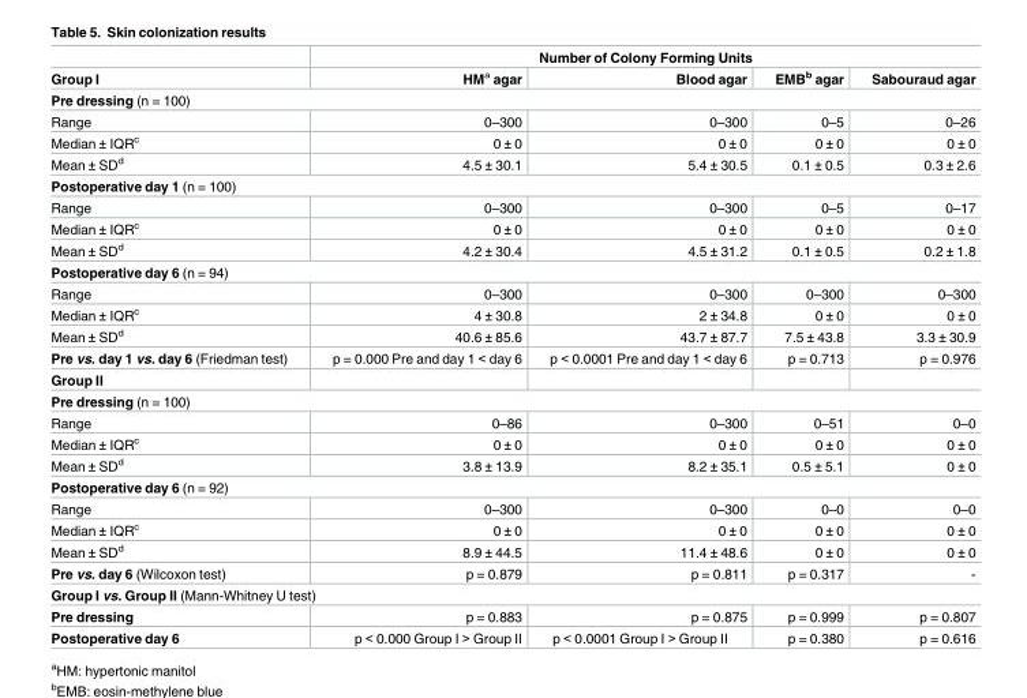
<table><thead><tr><td rowspan="2">Group I</td><td colspan="4">Number of Colony Forming Units</td></tr><tr><td>HM<sup>a</sup> agar</td><td>Blood agar</td><td>EMB<sup>b</sup> agar</td><td>Sabouraud agar</td></tr></thead><tbody><tr><td colspan="5">Pre dressing (n = 100)</td></tr><tr><td>Range</td><td>0–300</td><td>0–300</td><td>0–5</td><td>0–26</td></tr><tr><td>Median ± IQR<sup>c</sup></td><td>0 ± 0</td><td>0 ± 0</td><td>0 ± 0</td><td>0 ± 0</td></tr><tr><td>Mean ± SD<sup>d</sup></td><td>4.5 ± 30.1</td><td>5.4 ± 30.5</td><td>0.1 ± 0.5</td><td>0.3 ± 2.6</td></tr><tr><td colspan="5">Postoperative day 1 (n = 100)</td></tr><tr><td>Range</td><td>0–300</td><td>0–300</td><td>0–5</td><td>0–17</td></tr><tr><td>Median ± IQR<sup>c</sup></td><td>0 ± 0</td><td>0 ± 0</td><td>0 ± 0</td><td>0 ± 0</td></tr><tr><td>Mean ± SD<sup>d</sup></td><td>4.2 ± 30.4</td><td>4.5 ± 31.2</td><td>0.1 ± 0.5</td><td>0.2 ± 1.8</td></tr><tr><td colspan="5">Postoperative day 6 (n = 94)</td></tr><tr><td>Range</td><td>0–300</td><td>0–300</td><td>0–300</td><td>0–300</td></tr><tr><td>Median ± IQR<sup>c</sup></td><td>4 ± 30.8</td><td>2 ± 34.8</td><td>0 ± 0</td><td>0 ± 0</td></tr><tr><td>Mean ± SD<sup>d</sup></td><td>40.6 ± 85.6</td><td>43.7 ± 87.7</td><td>7.5 ± 43.8</td><td>3.3 ± 30.9</td></tr><tr><td>Pre vs. day 1 vs. day 6 (Friedman test)</td><td>p = 0.000 Pre and day 1 &lt; day 6</td><td>p &lt; 0.0001 Pre and day 1 &lt; day 6</td><td>p = 0.713</td><td>p = 0.976</td></tr><tr><td colspan="5">Group II</td></tr><tr><td colspan="5">Pre dressing (n = 100)</td></tr><tr><td>Range</td><td>0–86</td><td>0–300</td><td>0–51</td><td>0–0</td></tr><tr><td>Median ± IQR<sup>c</sup></td><td>0 ± 0</td><td>0 ± 0</td><td>0 ± 0</td><td>0 ± 0</td></tr><tr><td>Mean ± SD<sup>d</sup></td><td>3.8 ± 13.9</td><td>8.2 ± 35.1</td><td>0.5 ± 5.1</td><td>0 ± 0</td></tr><tr><td colspan="5">Postoperative day 6 (n = 92)</td></tr><tr><td>Range</td><td>0–300</td><td>0–300</td><td>0–0</td><td>0–0</td></tr><tr><td>Median ± IQR<sup>c</sup></td><td>0 ± 0</td><td>0 ± 0</td><td>0 ± 0</td><td>0 ± 0</td></tr><tr><td>Mean ± SD<sup>d</sup></td><td>8.9 ± 44.5</td><td>11.4 ± 48.6</td><td>0 ± 0</td><td>0 ± 0</td></tr><tr><td>Pre vs. day 6 (Wilcoxon test)</td><td>p = 0.879</td><td>p = 0.811</td><td>p = 0.317</td><td>-</td></tr><tr><td colspan="5">Group I vs. Group II (Mann-Whitney U test)</td></tr><tr><td>Pre dressing</td><td>p = 0.883</td><td>p = 0.875</td><td>p = 0.999</td><td>p = 0.807</td></tr><tr><td>Postoperative day 6</td><td>p &lt; 0.000 Group I &gt; Group II</td><td>p &lt; 0.0001 Group I &gt; Group II</td><td>p = 0.380</td><td>p = 0.616</td></tr></tbody></table>